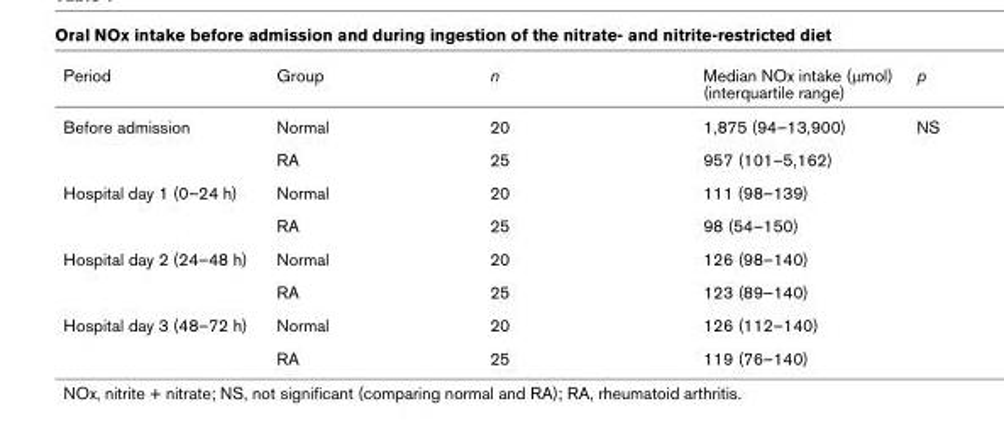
<table><thead><tr><td>Period</td><td>Group</td><td>n</td><td>Median NOx intake (µmol) (interquartile range)</td><td>p</td></tr></thead><tbody><tr><td rowspan="2">Before admission</td><td>Normal</td><td>20</td><td>1,875 (94–13,900)</td><td>NS</td></tr><tr><td>RA</td><td>25</td><td>957 (101–5,162)</td><td></td></tr><tr><td rowspan="2">Hospital day 1 (0–24 h)</td><td>Normal</td><td>20</td><td>111 (98–139)</td><td></td></tr><tr><td>RA</td><td>25</td><td>98 (54–150)</td><td></td></tr><tr><td rowspan="2">Hospital day 2 (24–48 h)</td><td>Normal</td><td>20</td><td>126 (98–140)</td><td></td></tr><tr><td>RA</td><td>25</td><td>123 (89–140)</td><td></td></tr><tr><td rowspan="2">Hospital day 3 (48–72 h)</td><td>Normal</td><td>20</td><td>126 (112–140)</td><td></td></tr><tr><td>RA</td><td>25</td><td>119 (76–140)</td><td></td></tr></tbody></table>